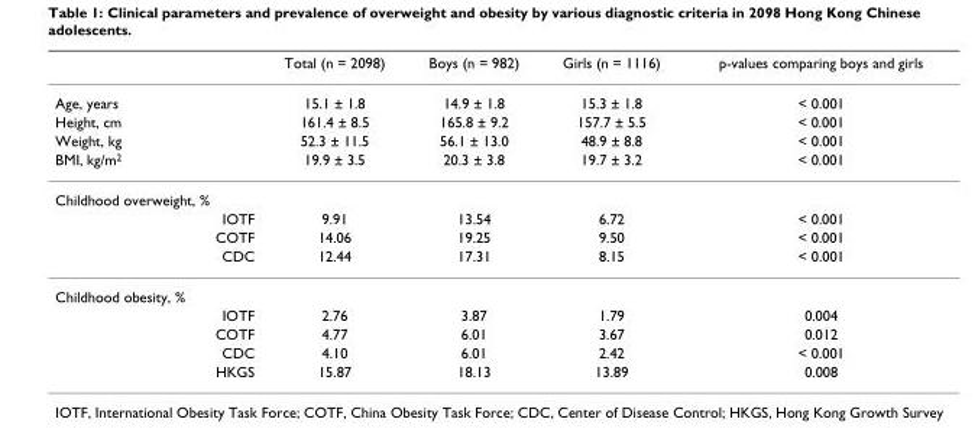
<table><thead><tr><td></td><td>Total (n = 2098)</td><td>Boys (n = 982)</td><td>Girls (n = 1116)</td><td>p-values comparing boys and girls</td></tr></thead><tbody><tr><td>Age, years</td><td>15.1 ± 1.8</td><td>14.9 ± 1.8</td><td>15.3 ± 1.8</td><td>&lt; 0.001</td></tr><tr><td>Height, cm</td><td>161.4 ± 8.5</td><td>165.8 ± 9.2</td><td>157.7 ± 5.5</td><td>&lt; 0.001</td></tr><tr><td>Weight, kg</td><td>52.3 ± 11.5</td><td>56.1 ± 13.0</td><td>48.9 ± 8.8</td><td>&lt; 0.001</td></tr><tr><td>BMI, kg/m<sup>2</sup></td><td>19.9 ± 3.5</td><td>20.3 ± 3.8</td><td>19.7 ± 3.2</td><td>&lt; 0.001</td></tr><tr><td colspan="5">Childhood overweight, %</td></tr><tr><td>IOTF</td><td>9.91</td><td>13.54</td><td>6.72</td><td>&lt; 0.001</td></tr><tr><td>COTF</td><td>14.06</td><td>19.25</td><td>9.50</td><td>&lt; 0.001</td></tr><tr><td>CDC</td><td>12.44</td><td>17.31</td><td>8.15</td><td>&lt; 0.001</td></tr><tr><td colspan="5">Childhood obesity, %</td></tr><tr><td>IOTF</td><td>2.76</td><td>3.87</td><td>1.79</td><td>0.004</td></tr><tr><td>COTF</td><td>4.77</td><td>6.01</td><td>3.67</td><td>0.012</td></tr><tr><td>CDC</td><td>4.10</td><td>6.01</td><td>2.42</td><td>&lt; 0.001</td></tr><tr><td>HKGS</td><td>15.87</td><td>18.13</td><td>13.89</td><td>0.008</td></tr></tbody></table>